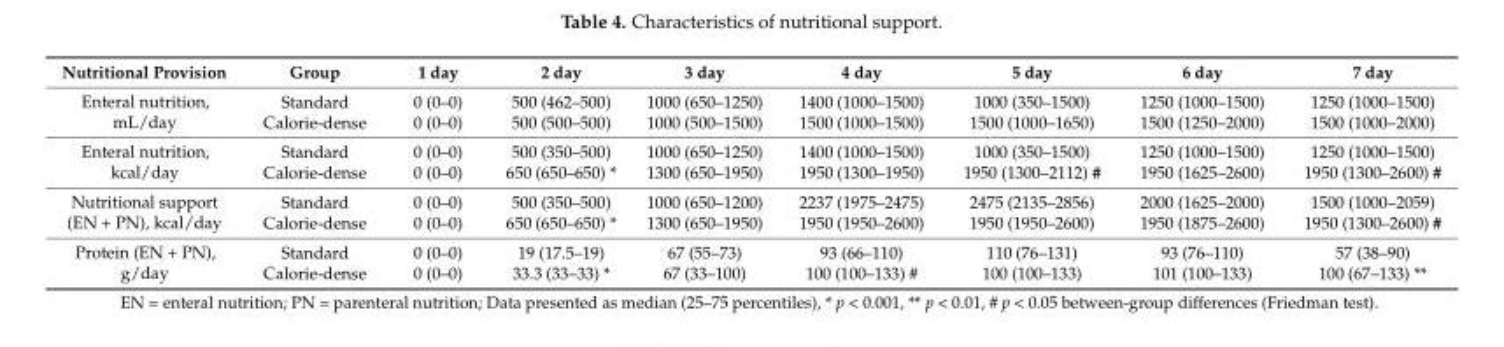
<table><thead><tr><td>Nutritional Provision</td><td>Group</td><td>1 day</td><td>2 day</td><td>3 day</td><td>4 day</td><td>5 day</td><td>6 day</td><td>7 day</td></tr></thead><tbody><tr><td rowspan="2">Enteral nutrition, mL/day</td><td>Standard</td><td>0 (0–0)</td><td>500 (462–500)</td><td>1000 (650–1250)</td><td>1400 (1000–1500)</td><td>1000 (350–1500)</td><td>1250 (1000–1500)</td><td>1250 (1000–1500)</td></tr><tr><td>Calorie-dense</td><td>0 (0–0)</td><td>500 (500–500)</td><td>1000 (500–1500)</td><td>1500 (1000–1500)</td><td>1500 (1000–1650)</td><td>1500 (1250–2000)</td><td>1500 (1000–2000)</td></tr><tr><td rowspan="2">Enteral nutrition, kcal/day</td><td>Standard</td><td>0 (0–0)</td><td>500 (350–500)</td><td>1000 (650–1250)</td><td>1400 (1000–1500)</td><td>1000 (350–1500)</td><td>1250 (1000–1500)</td><td>1250 (1000–1500)</td></tr><tr><td>Calorie-dense</td><td>0 (0–0)</td><td>650 (650–650) *</td><td>1300 (650–1950)</td><td>1950 (1300–1950)</td><td>1950 (1300–2112) #</td><td>1950 (1625–2600)</td><td>1950 (1300–2600) #</td></tr><tr><td rowspan="2">Nutritional support (EN + PN), kcal/day</td><td>Standard</td><td>0 (0–0)</td><td>500 (350–500)</td><td>1000 (650–1200)</td><td>2237 (1975–2475)</td><td>2475 (2135–2856)</td><td>2000 (1625–2000)</td><td>1500 (1000–2059)</td></tr><tr><td>Calorie-dense</td><td>0 (0–0)</td><td>650 (650–650) *</td><td>1300 (650–1950)</td><td>1950 (1950–2600)</td><td>1950 (1950–2600)</td><td>1950 (1875–2600)</td><td>1950 (1300–2600) #</td></tr><tr><td rowspan="2">Protein (EN + PN), g/day</td><td>Standard</td><td>0 (0–0)</td><td>19 (17.5–19)</td><td>67 (55–73)</td><td>93 (66–110)</td><td>110 (76–131)</td><td>93 (76–110)</td><td>57 (38–90)</td></tr><tr><td>Calorie-dense</td><td>0 (0–0)</td><td>33.3 (33–33) *</td><td>67 (33–100)</td><td>100 (100–133) #</td><td>100 (100–133)</td><td>101 (100–133)</td><td>100 (67–133) **</td></tr></tbody></table>